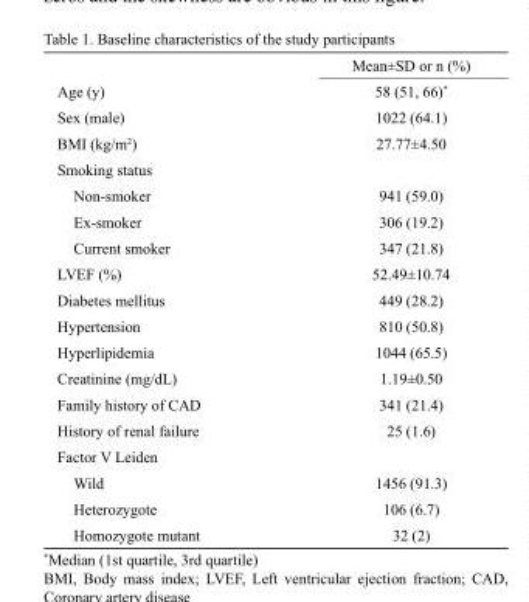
<table><thead><tr><td></td><td>Mean±SD or n (%)</td></tr></thead><tbody><tr><td>Age (y)</td><td>58 (51, 66)*</td></tr><tr><td>Sex (male)</td><td>1022 (64.1)</td></tr><tr><td>BMI (kg/m<sup>2</sup>)</td><td>27.77±4.50</td></tr><tr><td colspan="2">Smoking status</td></tr><tr><td>Non-smoker</td><td>941 (59.0)</td></tr><tr><td>Ex-smoker</td><td>306 (19.2)</td></tr><tr><td>Current smoker</td><td>347 (21.8)</td></tr><tr><td>LVEF (%)</td><td>52.49±10.74</td></tr><tr><td>Diabetes mellitus</td><td>449 (28.2)</td></tr><tr><td>Hypertension</td><td>810 (50.8)</td></tr><tr><td>Hyperlipidemia</td><td>1044 (65.5)</td></tr><tr><td>Creatinine (mg/dL)</td><td>1.19±0.50</td></tr><tr><td>Family history of CAD</td><td>341 (21.4)</td></tr><tr><td>History of renal failure</td><td>25 (1.6)</td></tr><tr><td colspan="2">Factor V Leiden</td></tr><tr><td>Wild</td><td>1456 (91.3)</td></tr><tr><td>Heterozygote</td><td>106 (6.7)</td></tr><tr><td>Homozygote mutant</td><td>32 (2)</td></tr></tbody></table>